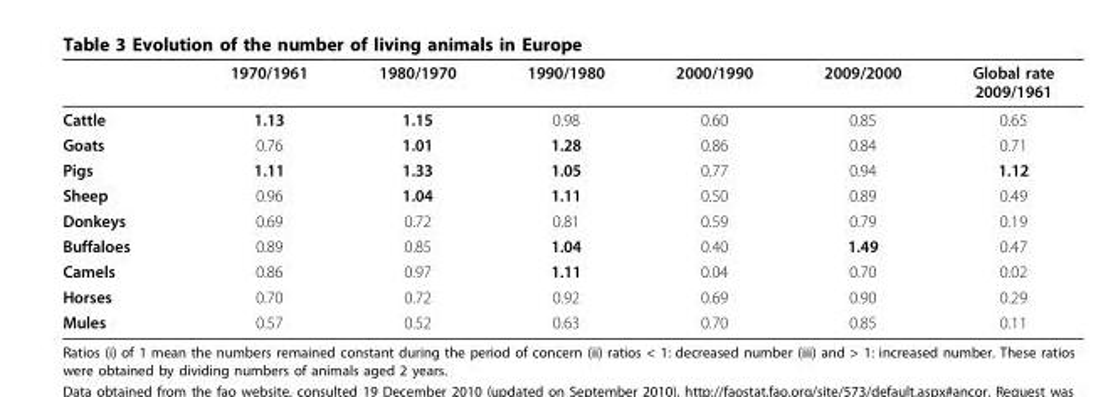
<table><thead><tr><td></td><td>1970/1961</td><td>1980/1970</td><td>1990/1980</td><td>2000/1990</td><td>2009/2000</td><td>Global rate 2009/1961</td></tr></thead><tbody><tr><td>Cattle</td><td>1.13</td><td>1.15</td><td>0.98</td><td>0.60</td><td>0.85</td><td>0.65</td></tr><tr><td>Goats</td><td>0.76</td><td>1.01</td><td>1.28</td><td>0.86</td><td>0.84</td><td>0.71</td></tr><tr><td>Pigs</td><td>1.11</td><td>1.33</td><td>1.05</td><td>0.77</td><td>0.94</td><td>1.12</td></tr><tr><td>Sheep</td><td>0.96</td><td>1.04</td><td>1.11</td><td>0.50</td><td>0.89</td><td>0.49</td></tr><tr><td>Donkeys</td><td>0.69</td><td>0.72</td><td>0.81</td><td>0.59</td><td>0.79</td><td>0.19</td></tr><tr><td>Buffaloes</td><td>0.89</td><td>0.85</td><td>1.04</td><td>0.40</td><td>1.49</td><td>0.47</td></tr><tr><td>Camels</td><td>0.86</td><td>0.97</td><td>1.11</td><td>0.04</td><td>0.70</td><td>0.02</td></tr><tr><td>Horses</td><td>0.70</td><td>0.72</td><td>0.92</td><td>0.69</td><td>0.90</td><td>0.29</td></tr><tr><td>Mules</td><td>0.57</td><td>0.52</td><td>0.63</td><td>0.70</td><td>0.85</td><td>0.11</td></tr></tbody></table>